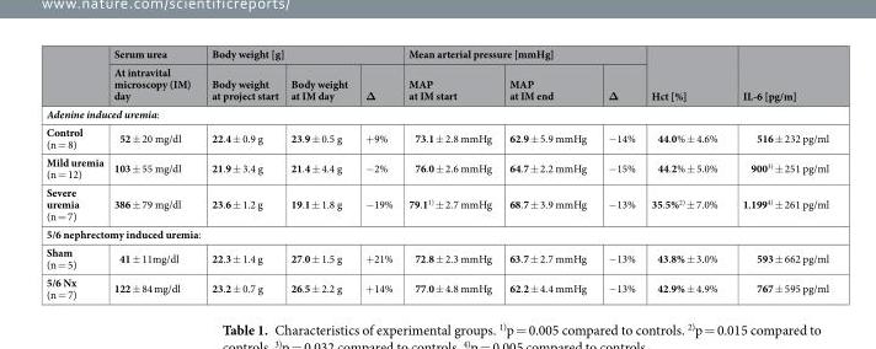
<table><thead><tr><td rowspan="2"></td><td rowspan="2">Serum urea At intravital microscopy (IM) day</td><td colspan="3">Body weight [g]</td><td colspan="3">Mean arterial pressure [mmHg]</td><td rowspan="2">Hct [%]</td><td rowspan="2">IL-6 [pg/m]</td></tr><tr><td>Body weight at project start</td><td>Body weight at IM day</td><td>Δ</td><td>MAP at IM start</td><td>MAP at IM end</td><td>Δ</td></tr></thead><tbody><tr><td colspan="10">Adenine induced uremia:</td></tr><tr><td>Control (n = 8)</td><td>52 ± 20 mg/dl</td><td>22.4 ± 0.9 g</td><td>23.9 ± 0.5 g</td><td>+9%</td><td>73.1 ± 2.8 mmHg</td><td>62.9 ± 5.9 mmHg</td><td>−14%</td><td>44.0% ± 4.6%</td><td>516 ± 232 pg/ml</td></tr><tr><td>Mild uremia (n = 12)</td><td>103 ± 55 mg/dl</td><td>21.9 ± 3.4 g</td><td>21.4 ± 4.4 g</td><td>−2%</td><td>76.0 ± 2.6 mmHg</td><td>64.7 ± 2.2 mmHg</td><td>−15%</td><td>44.2% ± 5.0%</td><td>900<sup>3)</sup> ± 251 pg/ml</td></tr><tr><td>Severe uremia (n = 7)</td><td>386 ± 79 mg/dl</td><td>23.6 ± 1.2 g</td><td>19.1 ± 1.8 g</td><td>−19%</td><td>79.1<sup>1)</sup> ± 2.7 mmHg</td><td>68.7 ± 3.9 mmHg</td><td>−13%</td><td>35.5%<sup>2)</sup> ± 7.0%</td><td>1,199<sup>4)</sup> ± 261 pg/ml</td></tr><tr><td colspan="10">5/6 nephrectomy induced uremia:</td></tr><tr><td>Sham (n = 5)</td><td>41 ± 11mg/dl</td><td>22.3 ± 1.4 g</td><td>27.0 ± 1.5 g</td><td>+21%</td><td>72.8 ± 2.3 mmHg</td><td>63.7 ± 2.7 mmHg</td><td>−13%</td><td>43.8% ± 3.0%</td><td>593 ± 662 pg/ml</td></tr><tr><td>5/6 Nx (n = 7)</td><td>122 ± 84 mg/dl</td><td>23.2 ± 0.7 g</td><td>26.5 ± 2.2 g</td><td>+14%</td><td>77.0 ± 4.8 mmHg</td><td>62.2 ± 4.4 mmHg</td><td>−13%</td><td>42.9% ± 4.9%</td><td>767 ± 595 pg/ml</td></tr></tbody></table>